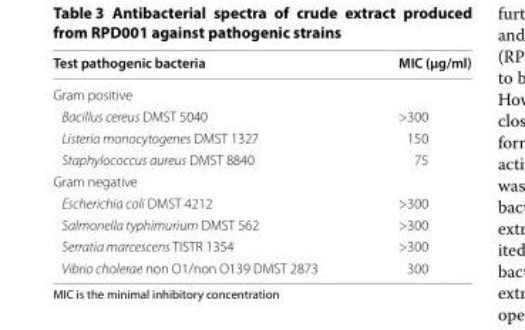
<table><thead><tr><td>Test pathogenic bacteria</td><td>MIC (µg/ml)</td></tr></thead><tbody><tr><td colspan="2">Gram positive</td></tr><tr><td>Bacillus cereus DMST 5040</td><td>&gt;300</td></tr><tr><td>Listeria monocytogenes DMST 1327</td><td>150</td></tr><tr><td>Staphylococcus aureus DMST 8840</td><td>75</td></tr><tr><td colspan="2">Gram negative</td></tr><tr><td>Escherichia coli DMST 4212</td><td>&gt;300</td></tr><tr><td>Salmonella typhimurium DMST 562</td><td>&gt;300</td></tr><tr><td>Serratia marcescens TISTR 1354</td><td>&gt;300</td></tr><tr><td>Vibrio cholerae non O1/non O139 DMST 2873</td><td>300</td></tr></tbody></table>